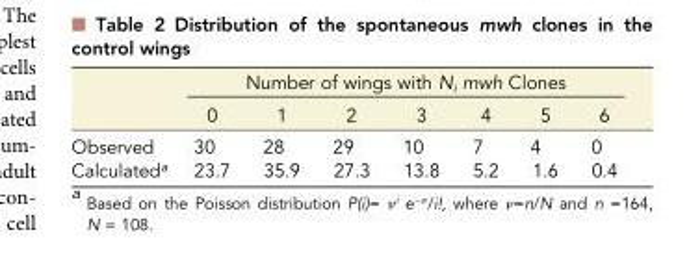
<table><thead><tr><td rowspan="2"></td><td colspan="7">Number of wings with N<sub>i</sub> mwh Clones</td></tr><tr><td>0</td><td>1</td><td>2</td><td>3</td><td>4</td><td>5</td><td>6</td></tr></thead><tbody><tr><td>Observed</td><td>30</td><td>28</td><td>29</td><td>10</td><td>7</td><td>4</td><td>0</td></tr><tr><td>Calculated<sup>a</sup></td><td>23.7</td><td>35.9</td><td>27.3</td><td>13.8</td><td>5.2</td><td>1.6</td><td>0.4</td></tr></tbody></table>